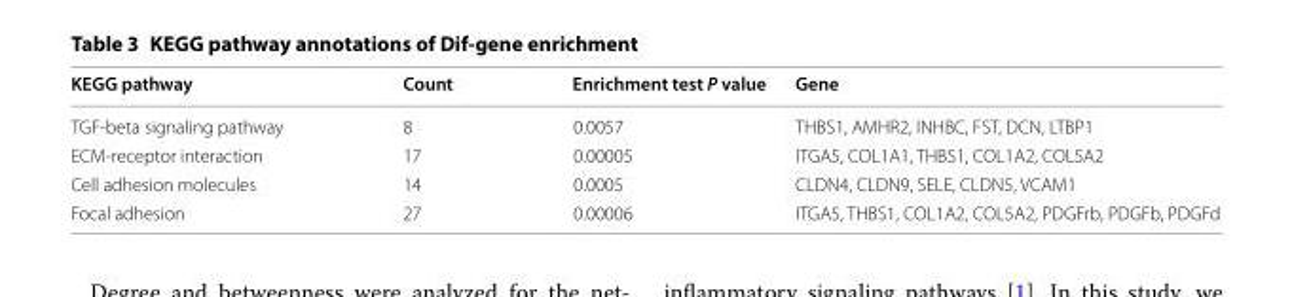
<table><thead><tr><td>KEGG pathway</td><td>Count</td><td>Enrichment test P value</td><td>Gene</td></tr></thead><tbody><tr><td>TGF‑beta signaling pathway</td><td>8</td><td>0.0057</td><td>THBS1, AMHR2, INHBC, FST, DCN, LTBP1</td></tr><tr><td>ECM‑receptor interaction</td><td>17</td><td>0.00005</td><td>ITGA5, COL1A1, THBS1, COL1A2, COL5A2</td></tr><tr><td>Cell adhesion molecules</td><td>14</td><td>0.0005</td><td>CLDN4, CLDN9, SELE, CLDN5, VCAM1</td></tr><tr><td>Focal adhesion</td><td>27</td><td>0.00006</td><td>ITGA5, THBS1, COL1A2, COL5A2, PDGFrb, PDGFb, PDGFd</td></tr></tbody></table>